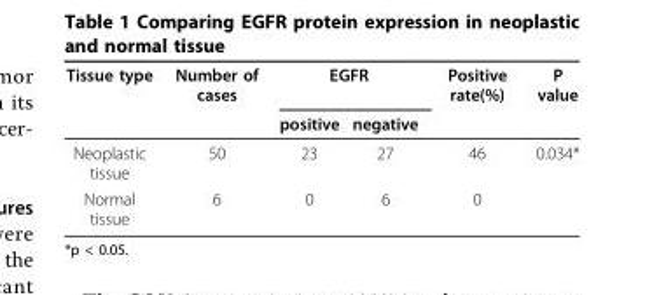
<table><thead><tr><td rowspan="2">Tissue type</td><td rowspan="2">Number of cases</td><td colspan="2">EGFR</td><td rowspan="2">Positive rate(%)</td><td rowspan="2">P value</td></tr><tr><td>positive</td><td>negative</td></tr></thead><tbody><tr><td>Neoplastic tissue</td><td>50</td><td>23</td><td>27</td><td>46</td><td>0.034*</td></tr><tr><td>Normal tissue</td><td>6</td><td>0</td><td>6</td><td>0</td><td></td></tr></tbody></table>